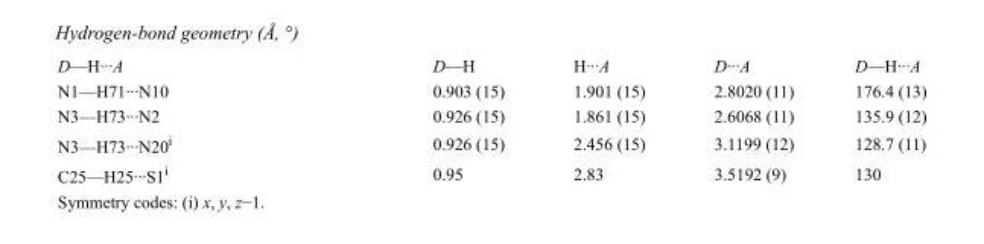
<table><tbody><tr><td>D—H···A</td><td>D—H</td><td>H···A</td><td>D···A</td><td>D—H···A</td></tr><tr><td>N1—H71···N10</td><td>0.903 (15)</td><td>1.901 (15)</td><td>2.8020 (11)</td><td>176.4 (13)</td></tr><tr><td>N3—H73···N2</td><td>0.926 (15)</td><td>1.861 (15)</td><td>2.6068 (11)</td><td>135.9 (12)</td></tr><tr><td>N3—H73···N20<sup>i</sup></td><td>0.926 (15)</td><td>2.456 (15)</td><td>3.1199 (12)</td><td>128.7 (11)</td></tr><tr><td>C25—H25···S1<sup>i</sup></td><td>0.95</td><td>2.83</td><td>3.5192 (9)</td><td>130</td></tr></tbody></table>